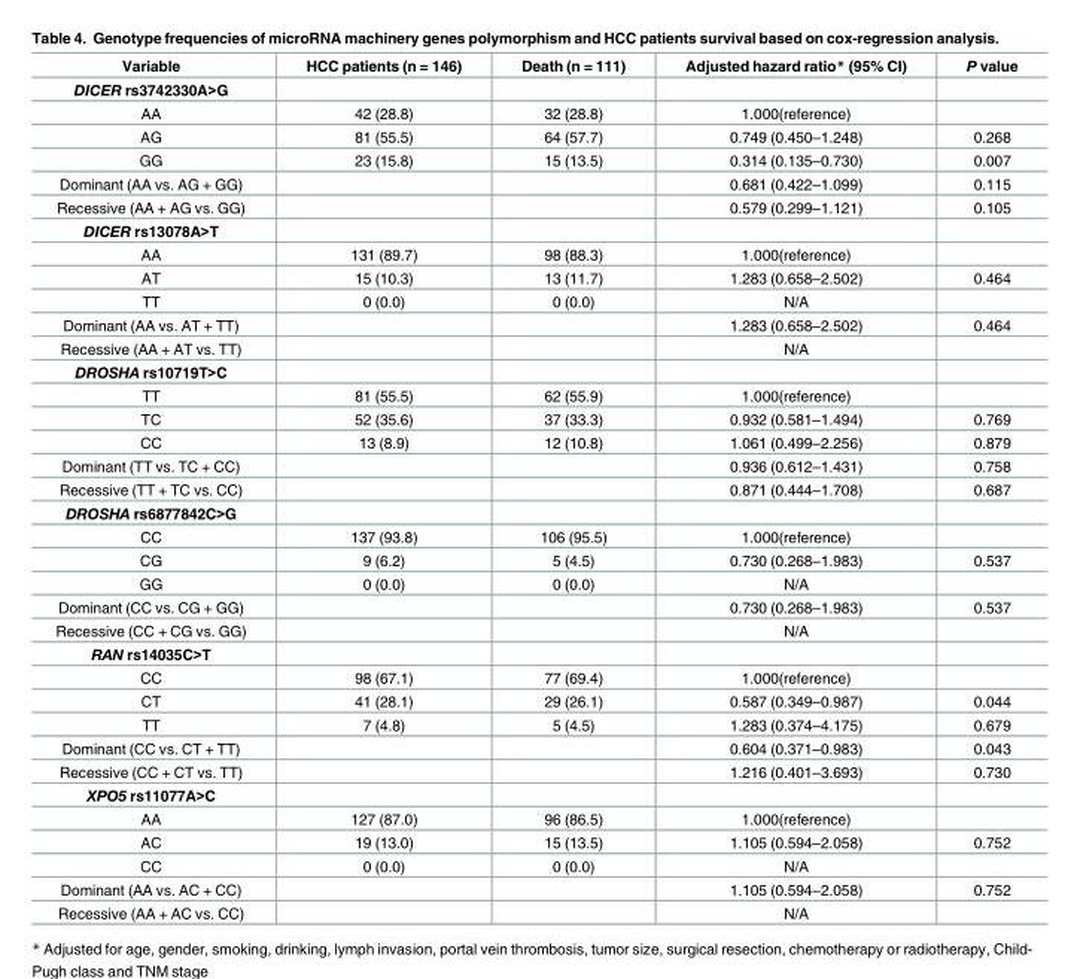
<table><thead><tr><td>Variable</td><td>HCC patients (n = 146)</td><td>Death (n = 111)</td><td>Adjusted hazard ratio* (95% CI)</td><td>P value</td></tr></thead><tbody><tr><td colspan="5">DICER rs3742330A&gt;G</td></tr><tr><td>AA</td><td>42 (28.8)</td><td>32 (28.8)</td><td>1.000(reference)</td><td></td></tr><tr><td>AG</td><td>81 (55.5)</td><td>64 (57.7)</td><td>0.749 (0.450–1.248)</td><td>0.268</td></tr><tr><td>GG</td><td>23 (15.8)</td><td>15 (13.5)</td><td>0.314 (0.135–0.730)</td><td>0.007</td></tr><tr><td>Dominant (AA vs. AG + GG)</td><td></td><td></td><td>0.681 (0.422–1.099)</td><td>0.115</td></tr><tr><td>Recessive (AA + AG vs. GG)</td><td></td><td></td><td>0.579 (0.299–1.121)</td><td>0.105</td></tr><tr><td colspan="5">DICER rs13078A&gt;T</td></tr><tr><td>AA</td><td>131 (89.7)</td><td>98 (88.3)</td><td>1.000(reference)</td><td></td></tr><tr><td>AT</td><td>15 (10.3)</td><td>13 (11.7)</td><td>1.283 (0.658–2.502)</td><td>0.464</td></tr><tr><td>TT</td><td>0 (0.0)</td><td>0 (0.0)</td><td>N/A</td><td></td></tr><tr><td>Dominant (AA vs. AT + TT)</td><td></td><td></td><td>1.283 (0.658–2.502)</td><td>0.464</td></tr><tr><td>Recessive (AA + AT vs. TT)</td><td></td><td></td><td>N/A</td><td></td></tr><tr><td colspan="5">DROSHA rs10719T&gt;C</td></tr><tr><td>TT</td><td>81 (55.5)</td><td>62 (55.9)</td><td>1.000(reference)</td><td></td></tr><tr><td>TC</td><td>52 (35.6)</td><td>37 (33.3)</td><td>0.932 (0.581–1.494)</td><td>0.769</td></tr><tr><td>CC</td><td>13 (8.9)</td><td>12 (10.8)</td><td>1.061 (0.499–2.256)</td><td>0.879</td></tr><tr><td>Dominant (TT vs. TC + CC)</td><td></td><td></td><td>0.936 (0.612–1.431)</td><td>0.758</td></tr><tr><td>Recessive (TT + TC vs. CC)</td><td></td><td></td><td>0.871 (0.444–1.708)</td><td>0.687</td></tr><tr><td colspan="5">DROSHA rs6877842C&gt;G</td></tr><tr><td>CC</td><td>137 (93.8)</td><td>106 (95.5)</td><td>1.000(reference)</td><td></td></tr><tr><td>CG</td><td>9 (6.2)</td><td>5 (4.5)</td><td>0.730 (0.268–1.983)</td><td>0.537</td></tr><tr><td>GG</td><td>0 (0.0)</td><td>0 (0.0)</td><td>N/A</td><td></td></tr><tr><td>Dominant (CC vs. CG + GG)</td><td></td><td></td><td>0.730 (0.268–1.983)</td><td>0.537</td></tr><tr><td>Recessive (CC + CG vs. GG)</td><td></td><td></td><td>N/A</td><td></td></tr><tr><td colspan="5">RAN rs14035C&gt;T</td></tr><tr><td>CC</td><td>98 (67.1)</td><td>77 (69.4)</td><td>1.000(reference)</td><td></td></tr><tr><td>CT</td><td>41 (28.1)</td><td>29 (26.1)</td><td>0.587 (0.349–0.987)</td><td>0.044</td></tr><tr><td>TT</td><td>7 (4.8)</td><td>5 (4.5)</td><td>1.283 (0.374–4.175)</td><td>0.679</td></tr><tr><td>Dominant (CC vs. CT + TT)</td><td></td><td></td><td>0.604 (0.371–0.983)</td><td>0.043</td></tr><tr><td>Recessive (CC + CT vs. TT)</td><td></td><td></td><td>1.216 (0.401–3.693)</td><td>0.730</td></tr><tr><td colspan="5">XPO5 rs11077A&gt;C</td></tr><tr><td>AA</td><td>127 (87.0)</td><td>96 (86.5)</td><td>1.000(reference)</td><td></td></tr><tr><td>AC</td><td>19 (13.0)</td><td>15 (13.5)</td><td>1.105 (0.594–2.058)</td><td>0.752</td></tr><tr><td>CC</td><td>0 (0.0)</td><td>0 (0.0)</td><td>N/A</td><td></td></tr><tr><td>Dominant (AA vs. AC + CC)</td><td></td><td></td><td>1.105 (0.594–2.058)</td><td>0.752</td></tr><tr><td>Recessive (AA + AC vs. CC)</td><td></td><td></td><td>N/A</td><td></td></tr></tbody></table>